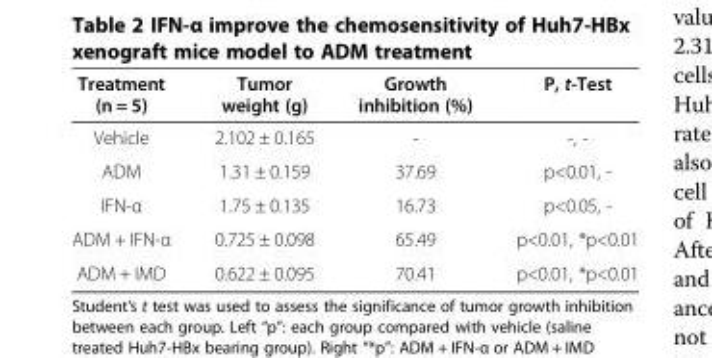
<table><thead><tr><td>Treatment (n = 5)</td><td>Tumor weight (g)</td><td>Growth inhibition (%)</td><td>P, t-Test</td></tr></thead><tbody><tr><td>Vehicle</td><td>2.102 ± 0.165</td><td>-</td><td>-, -</td></tr><tr><td>ADM</td><td>1.31 ± 0.159</td><td>37.69</td><td>p&lt;0.01, -</td></tr><tr><td>IFN-α</td><td>1.75 ± 0.135</td><td>16.73</td><td>p&lt;0.05, -</td></tr><tr><td>ADM + IFN-α</td><td>0.725 ± 0.098</td><td>65.49</td><td>p&lt;0.01, *p&lt;0.01</td></tr><tr><td>ADM + IMD</td><td>0.622 ± 0.095</td><td>70.41</td><td>p&lt;0.01, *p&lt;0.01</td></tr></tbody></table>